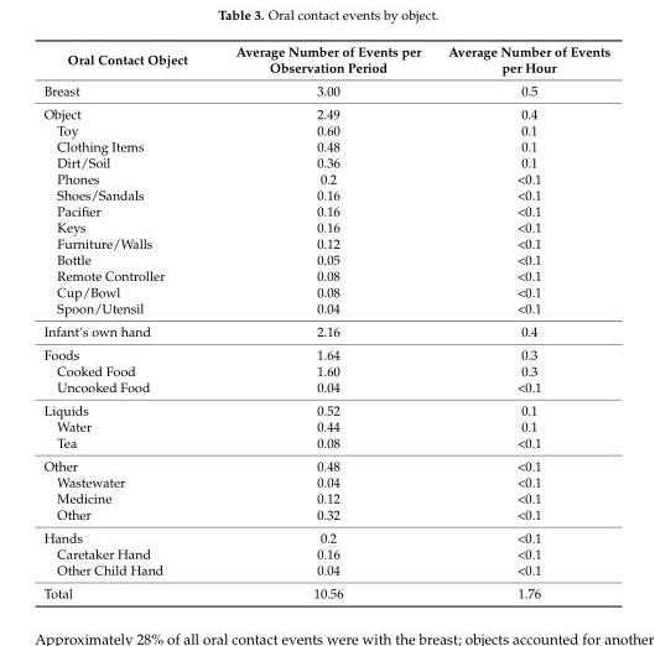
<table><thead><tr><td>Oral Contact Object</td><td>Average Number of Events per Observation Period</td><td>Average Number of Events per Hour</td></tr></thead><tbody><tr><td>Breast</td><td>3.00</td><td>0.5</td></tr><tr><td>Object</td><td>2.49</td><td>0.4</td></tr><tr><td>Toy</td><td>0.60</td><td>0.1</td></tr><tr><td>Clothing Items</td><td>0.48</td><td>0.1</td></tr><tr><td>Dirt/Soil</td><td>0.36</td><td>0.1</td></tr><tr><td>Phones</td><td>0.2</td><td>&lt;0.1</td></tr><tr><td>Shoes/Sandals</td><td>0.16</td><td>&lt;0.1</td></tr><tr><td>Pacifier</td><td>0.16</td><td>&lt;0.1</td></tr><tr><td>Keys</td><td>0.16</td><td>&lt;0.1</td></tr><tr><td>Furniture/Walls</td><td>0.12</td><td>&lt;0.1</td></tr><tr><td>Bottle</td><td>0.05</td><td>&lt;0.1</td></tr><tr><td>Remote Controller</td><td>0.08</td><td>&lt;0.1</td></tr><tr><td>Cup/Bowl</td><td>0.08</td><td>&lt;0.1</td></tr><tr><td>Spoon/Utensil</td><td>0.04</td><td>&lt;0.1</td></tr><tr><td>Infant’s own hand</td><td>2.16</td><td>0.4</td></tr><tr><td>Foods</td><td>1.64</td><td>0.3</td></tr><tr><td>Cooked Food</td><td>1.60</td><td>0.3</td></tr><tr><td>Uncooked Food</td><td>0.04</td><td>&lt;0.1</td></tr><tr><td>Liquids</td><td>0.52</td><td>0.1</td></tr><tr><td>Water</td><td>0.44</td><td>0.1</td></tr><tr><td>Tea</td><td>0.08</td><td>&lt;0.1</td></tr><tr><td>Other</td><td>0.48</td><td>&lt;0.1</td></tr><tr><td>Wastewater</td><td>0.04</td><td>&lt;0.1</td></tr><tr><td>Medicine</td><td>0.12</td><td>&lt;0.1</td></tr><tr><td>Other</td><td>0.32</td><td>&lt;0.1</td></tr><tr><td>Hands</td><td>0.2</td><td>&lt;0.1</td></tr><tr><td>Caretaker Hand</td><td>0.16</td><td>&lt;0.1</td></tr><tr><td>Other Child Hand</td><td>0.04</td><td>&lt;0.1</td></tr><tr><td>Total</td><td>10.56</td><td>1.76</td></tr></tbody></table>